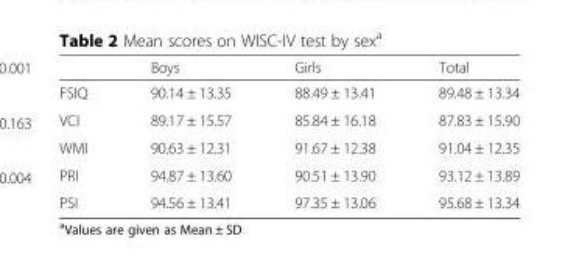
<table><thead><tr><td></td><td>Boys</td><td>Girls</td><td>Total</td></tr></thead><tbody><tr><td>FSIQ</td><td>90.14 ± 13.35</td><td>88.49 ± 13.41</td><td>89.48 ± 13.34</td></tr><tr><td>VCI</td><td>89.17 ± 15.57</td><td>85.84 ± 16.18</td><td>87.83 ± 15.90</td></tr><tr><td>WMI</td><td>90.63 ± 12.31</td><td>91.67 ± 12.38</td><td>91.04 ± 12.35</td></tr><tr><td>PRI</td><td>94.87 ± 13.60</td><td>90.51 ± 13.90</td><td>93.12 ± 13.89</td></tr><tr><td>PSI</td><td>94.56 ± 13.41</td><td>97.35 ± 13.06</td><td>95.68 ± 13.34</td></tr></tbody></table>